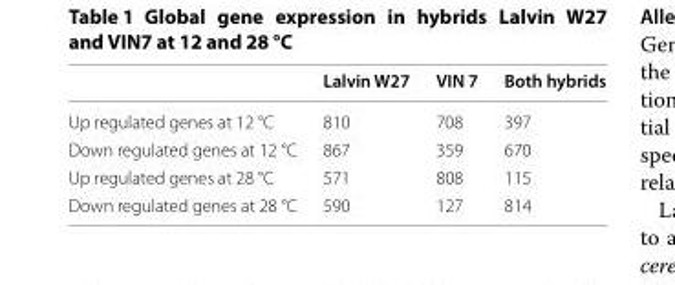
<table><thead><tr><td></td><td>Lalvin W27</td><td>VIN 7</td><td>Both hybrids</td></tr></thead><tbody><tr><td>Up regulated genes at 12 °C</td><td>810</td><td>708</td><td>397</td></tr><tr><td>Down regulated genes at 12 °C</td><td>867</td><td>359</td><td>670</td></tr><tr><td>Up regulated genes at 28 °C</td><td>571</td><td>808</td><td>115</td></tr><tr><td>Down regulated genes at 28 °C</td><td>590</td><td>127</td><td>814</td></tr></tbody></table>